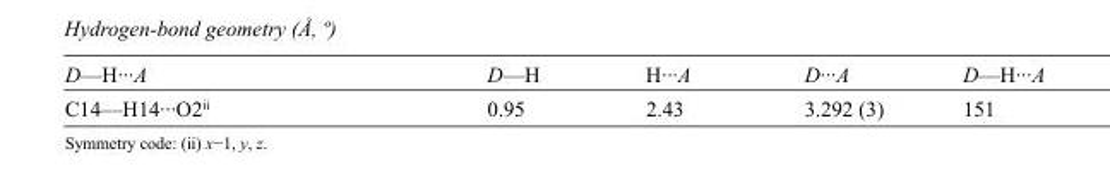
<table><tbody><tr><td>D—H···A</td><td>D—H</td><td>H···A</td><td>D···A</td><td>D—H···A</td></tr><tr><td>C14—H14···O2<sup>ii</sup></td><td>0.95</td><td>2.43</td><td>3.292 (3)</td><td>151</td></tr></tbody></table>